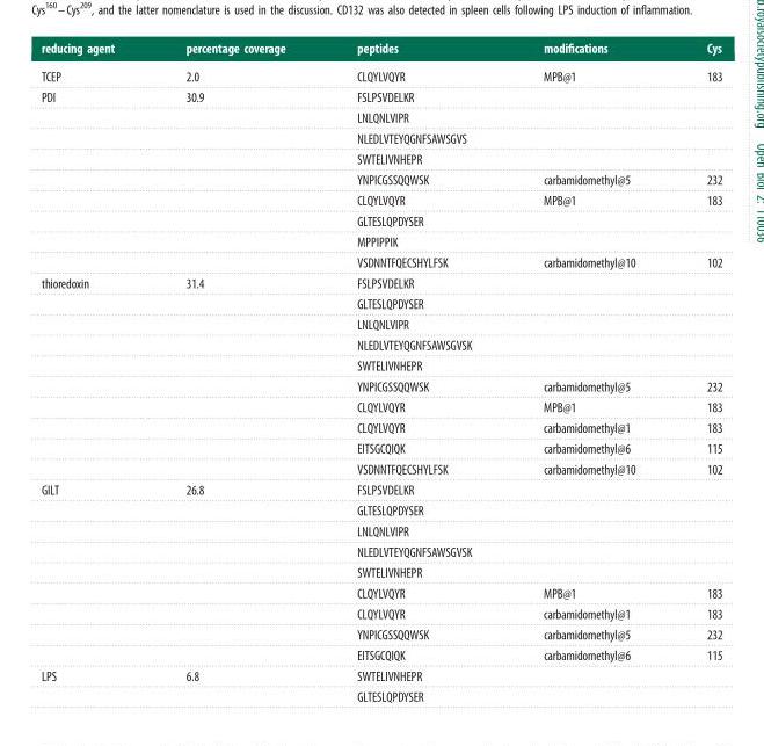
<table><thead><tr><td>reducing agent</td><td>percentage coverage</td><td>peptides</td><td>modifications</td><td>Cys</td></tr></thead><tbody><tr><td>TCEP</td><td>2.0</td><td>CLQYLVQYR</td><td>MPB@1</td><td>183</td></tr><tr><td rowspan="9">PDI</td><td>30.9</td><td>FSLPSVDELKR</td><td></td><td></td></tr><tr><td></td><td>LNLQNLVIPR</td><td></td><td></td></tr><tr><td></td><td>NLEDLVTEYQGNFSAWSGVS</td><td></td><td></td></tr><tr><td></td><td>SWTELIVNHEPR</td><td></td><td></td></tr><tr><td></td><td>YNPICGSSQQWSK</td><td>carbamidomethyl@5</td><td>232</td></tr><tr><td></td><td>CLQYLVQYR</td><td>MPB@1</td><td>183</td></tr><tr><td></td><td>GLTESLQPDYSER</td><td></td><td></td></tr><tr><td></td><td>MPPIPPIK</td><td></td><td></td></tr><tr><td></td><td>VSDNNTFQECSHYLFSK</td><td>carbamidomethyl@10</td><td>102</td></tr><tr><td rowspan="10">thioredoxin</td><td>31.4</td><td>FSLPSVDELKR</td><td></td><td></td></tr><tr><td></td><td>GLTESLQPDYSER</td><td></td><td></td></tr><tr><td></td><td>LNLQNLVIPR</td><td></td><td></td></tr><tr><td></td><td>NLEDLVTEYQGNFSAWSGVSK</td><td></td><td></td></tr><tr><td></td><td>SWTELIVNHEPR</td><td></td><td></td></tr><tr><td></td><td>YNPICGSSQQWSK</td><td>carbamidomethyl@5</td><td>232</td></tr><tr><td></td><td>CLQYLVQYR</td><td>MPB@1</td><td>183</td></tr><tr><td></td><td>CLQYLVQYR</td><td>carbamidomethyl@1</td><td>183</td></tr><tr><td></td><td>EITSGCQIQK</td><td>carbamidomethyl@6</td><td>115</td></tr><tr><td></td><td>VSDNNTFQECSHYLFSK</td><td>carbamidomethyl@10</td><td>102</td></tr><tr><td rowspan="9">GILT</td><td>26.8</td><td>FSLPSVDELKR</td><td></td><td></td></tr><tr><td></td><td>GLTESLQPDYSER</td><td></td><td></td></tr><tr><td></td><td>LNLQNLVIPR</td><td></td><td></td></tr><tr><td></td><td>NLEDLVTEYQGNFSAWSGVSK</td><td></td><td></td></tr><tr><td></td><td>SWTELIVNHEPR</td><td></td><td></td></tr><tr><td></td><td>CLQYLVQYR</td><td>MPB@1</td><td>183</td></tr><tr><td></td><td>CLQYLVQYR</td><td>carbamidomethyl@1</td><td>183</td></tr><tr><td></td><td>YNPICGSSQQWSK</td><td>carbamidomethyl@5</td><td>232</td></tr><tr><td></td><td>EITSGCQIQK</td><td>carbamidomethyl@6</td><td>115</td></tr><tr><td rowspan="2">LPS</td><td>6.8</td><td>SWTELIVNHEPR</td><td></td><td></td></tr><tr><td></td><td>GLTESLQPDYSER</td><td></td><td></td></tr></tbody></table>